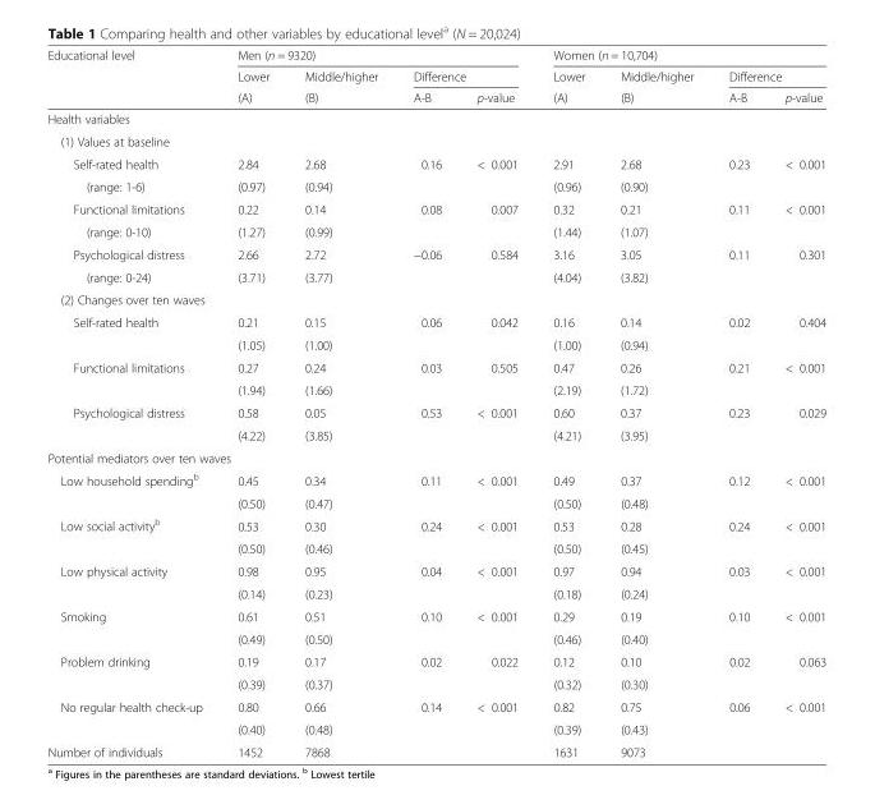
<table><thead><tr><td rowspan="3">Educational level</td><td colspan="4">Men (n = 9320)</td><td colspan="4">Women (n = 10,704)</td></tr><tr><td rowspan="2">Lower (A)</td><td rowspan="2">Middle/higher (B)</td><td colspan="2">Difference</td><td rowspan="2">Lower (A)</td><td rowspan="2">Middle/higher (B)</td><td colspan="2">Difference</td></tr><tr><td>A-B</td><td>p-value</td><td>A-B</td><td>p-value</td></tr></thead><tbody><tr><td colspan="9">Health variables</td></tr><tr><td colspan="9">(1) Values at baseline</td></tr><tr><td>Self-rated health</td><td>2.84</td><td>2.68</td><td>0.16</td><td>&lt; 0.001</td><td>2.91</td><td>2.68</td><td>0.23</td><td>&lt; 0.001</td></tr><tr><td>(range: 1-6)</td><td>(0.97)</td><td>(0.94)</td><td></td><td></td><td>(0.96)</td><td>(0.90)</td><td></td><td></td></tr><tr><td>Functional limitations</td><td>0.22</td><td>0.14</td><td>0.08</td><td>0.007</td><td>0.32</td><td>0.21</td><td>0.11</td><td>&lt; 0.001</td></tr><tr><td>(range: 0-10)</td><td>(1.27)</td><td>(0.99)</td><td></td><td></td><td>(1.44)</td><td>(1.07)</td><td></td><td></td></tr><tr><td>Psychological distress</td><td>2.66</td><td>2.72</td><td>−0.06</td><td>0.584</td><td>3.16</td><td>3.05</td><td>0.11</td><td>0.301</td></tr><tr><td>(range: 0-24)</td><td>(3.71)</td><td>(3.77)</td><td></td><td></td><td>(4.04)</td><td>(3.82)</td><td></td><td></td></tr><tr><td colspan="9">(2) Changes over ten waves</td></tr><tr><td rowspan="2">Self-rated health</td><td>0.21</td><td>0.15</td><td>0.06</td><td>0.042</td><td>0.16</td><td>0.14</td><td>0.02</td><td>0.404</td></tr><tr><td>(1.05)</td><td>(1.00)</td><td></td><td></td><td>(1.00)</td><td>(0.94)</td><td></td><td></td></tr><tr><td rowspan="2">Functional limitations</td><td>0.27</td><td>0.24</td><td>0.03</td><td>0.505</td><td>0.47</td><td>0.26</td><td>0.21</td><td>&lt; 0.001</td></tr><tr><td>(1.94)</td><td>(1.66)</td><td></td><td></td><td>(2.19)</td><td>(1.72)</td><td></td><td></td></tr><tr><td rowspan="2">Psychological distress</td><td>0.58</td><td>0.05</td><td>0.53</td><td>&lt; 0.001</td><td>0.60</td><td>0.37</td><td>0.23</td><td>0.029</td></tr><tr><td>(4.22)</td><td>(3.85)</td><td></td><td></td><td>(4.21)</td><td>(3.95)</td><td></td><td></td></tr><tr><td colspan="9">Potential mediators over ten waves</td></tr><tr><td rowspan="2">Low household spending<sup>b</sup></td><td>0.45</td><td>0.34</td><td>0.11</td><td>&lt; 0.001</td><td>0.49</td><td>0.37</td><td>0.12</td><td>&lt; 0.001</td></tr><tr><td>(0.50)</td><td>(0.47)</td><td></td><td></td><td>(0.50)</td><td>(0.48)</td><td></td><td></td></tr><tr><td rowspan="2">Low social activity<sup>b</sup></td><td>0.53</td><td>0.30</td><td>0.24</td><td>&lt; 0.001</td><td>0.53</td><td>0.28</td><td>0.24</td><td>&lt; 0.001</td></tr><tr><td>(0.50)</td><td>(0.46)</td><td></td><td></td><td>(0.50)</td><td>(0.45)</td><td></td><td></td></tr><tr><td rowspan="2">Low physical activity</td><td>0.98</td><td>0.95</td><td>0.04</td><td>&lt; 0.001</td><td>0.97</td><td>0.94</td><td>0.03</td><td>&lt; 0.001</td></tr><tr><td>(0.14)</td><td>(0.23)</td><td></td><td></td><td>(0.18)</td><td>(0.24)</td><td></td><td></td></tr><tr><td rowspan="2">Smoking</td><td>0.61</td><td>0.51</td><td>0.10</td><td>&lt; 0.001</td><td>0.29</td><td>0.19</td><td>0.10</td><td>&lt; 0.001</td></tr><tr><td>(0.49)</td><td>(0.50)</td><td></td><td></td><td>(0.46)</td><td>(0.40)</td><td></td><td></td></tr><tr><td rowspan="2">Problem drinking</td><td>0.19</td><td>0.17</td><td>0.02</td><td>0.022</td><td>0.12</td><td>0.10</td><td>0.02</td><td>0.063</td></tr><tr><td>(0.39)</td><td>(0.37)</td><td></td><td></td><td>(0.32)</td><td>(0.30)</td><td></td><td></td></tr><tr><td rowspan="2">No regular health check-up</td><td>0.80</td><td>0.66</td><td>0.14</td><td>&lt; 0.001</td><td>0.82</td><td>0.75</td><td>0.06</td><td>&lt; 0.001</td></tr><tr><td>(0.40)</td><td>(0.48)</td><td></td><td></td><td>(0.39)</td><td>(0.43)</td><td></td><td></td></tr><tr><td>Number of individuals</td><td>1452</td><td>7868</td><td></td><td></td><td>1631</td><td>9073</td><td></td><td></td></tr></tbody></table>